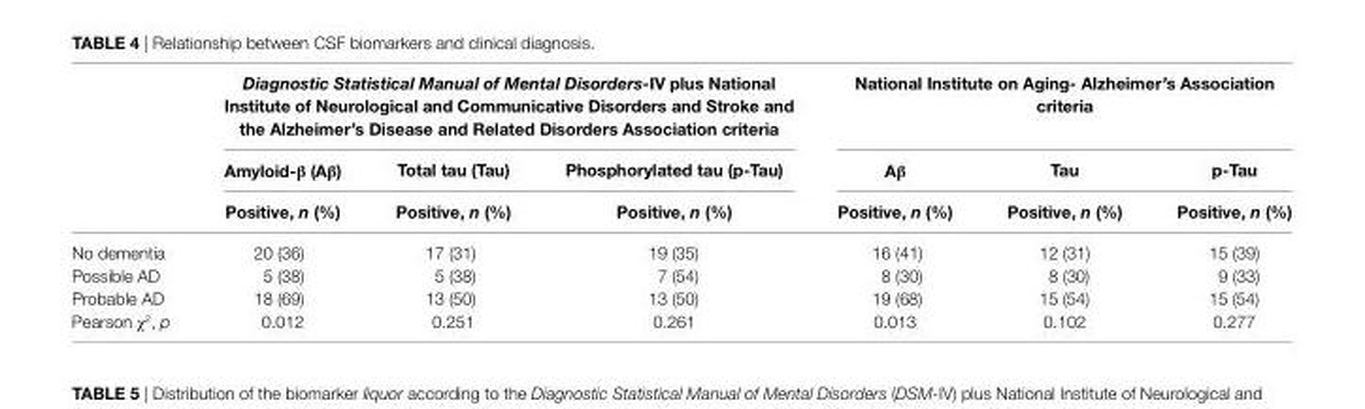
<table><thead><tr><td rowspan="3"></td><td colspan="3">Diagnostic Statistical Manual of Mental Disorders-iV plus national institute of neurological and communicative Disorders and stroke and the alzheimer’s Disease and related Disorders association criteria</td><td colspan="3">national institute on aging- alzheimer’s association criteria</td></tr><tr><td rowspan="2">amyloid-β (aβ) Positive, n (%)</td><td rowspan="2">Total tau (Tau) Positive, n (%)</td><td rowspan="2">Phosphorylated tau (p-Tau) Positive, n (%)</td><td rowspan="2">aβ Positive, n (%)</td><td rowspan="2">Tau Positive, n (%)</td><td rowspan="2">p-Tau Positive, n (%)</td></tr><tr></tr></thead><tbody><tr><td>No dementia</td><td>20 (36)</td><td>17 (31)</td><td>19 (35)</td><td>16 (41)</td><td>12 (31)</td><td>15 (39)</td></tr><tr><td>Possible AD</td><td>5 (38)</td><td>5 (38)</td><td>7 (54)</td><td>8 (30)</td><td>8 (30)</td><td>9 (33)</td></tr><tr><td>Probable AD</td><td>18 (69)</td><td>13 (50)</td><td>13 (50)</td><td>19 (68)</td><td>15 (54)</td><td>15 (54)</td></tr><tr><td>Pearson χ<sup>2</sup>, p</td><td>0.012</td><td>0.251</td><td>0.261</td><td>0.013</td><td>0.102</td><td>0.277</td></tr></tbody></table>